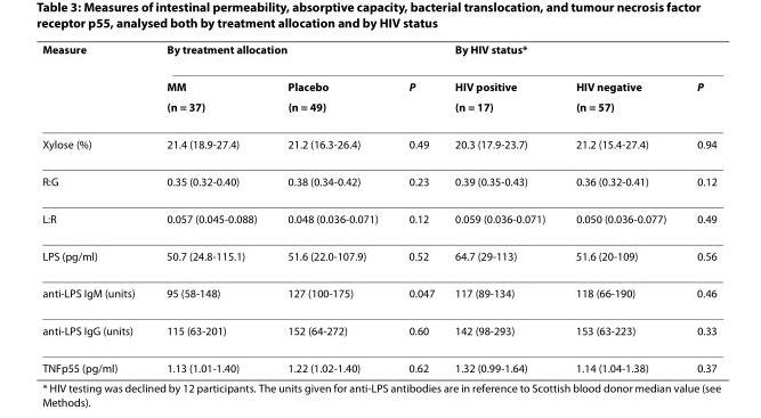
<table><thead><tr><td rowspan="3">Measure</td><td colspan="3">By treatment allocation</td><td colspan="3">By HIV status*</td></tr><tr><td rowspan="2">MM (n = 37)</td><td rowspan="2">Placebo (n = 49)</td><td rowspan="2">P</td><td rowspan="2">HIV positive (n = 17)</td><td rowspan="2">HIV negative (n = 57)</td><td rowspan="2">P</td></tr><tr></tr></thead><tbody><tr><td>Xylose (%)</td><td>21.4 (18.9-27.4)</td><td>21.2 (16.3-26.4)</td><td>0.49</td><td>20.3 (17.9-23.7)</td><td>21.2 (15.4-27.4)</td><td>0.94</td></tr><tr><td>R:G</td><td>0.35 (0.32-0.40)</td><td>0.38 (0.34-0.42)</td><td>0.23</td><td>0.39 (0.35-0.43)</td><td>0.36 (0.32-0.41)</td><td>0.12</td></tr><tr><td>L:R</td><td>0.057 (0.045-0.088)</td><td>0.048 (0.036-0.071)</td><td>0.12</td><td>0.059 (0.036-0.071)</td><td>0.050 (0.036-0.077)</td><td>0.49</td></tr><tr><td>LPS (pg/ml)</td><td>50.7 (24.8-115.1)</td><td>51.6 (22.0-107.9)</td><td>0.52</td><td>64.7 (29-113)</td><td>51.6 (20-109)</td><td>0.56</td></tr><tr><td>anti-LPS IgM (units)</td><td>95 (58-148)</td><td>127 (100-175)</td><td>0.047</td><td>117 (89-134)</td><td>118 (66-190)</td><td>0.46</td></tr><tr><td>anti-LPS IgG (units)</td><td>115 (63-201)</td><td>152 (64-272)</td><td>0.60</td><td>142 (98-293)</td><td>153 (63-223)</td><td>0.33</td></tr><tr><td>TNFp55 (pg/ml)</td><td>1.13 (1.01-1.40)</td><td>1.22 (1.02-1.40)</td><td>0.62</td><td>1.32 (0.99-1.64)</td><td>1.14 (1.04-1.38)</td><td>0.37</td></tr></tbody></table>